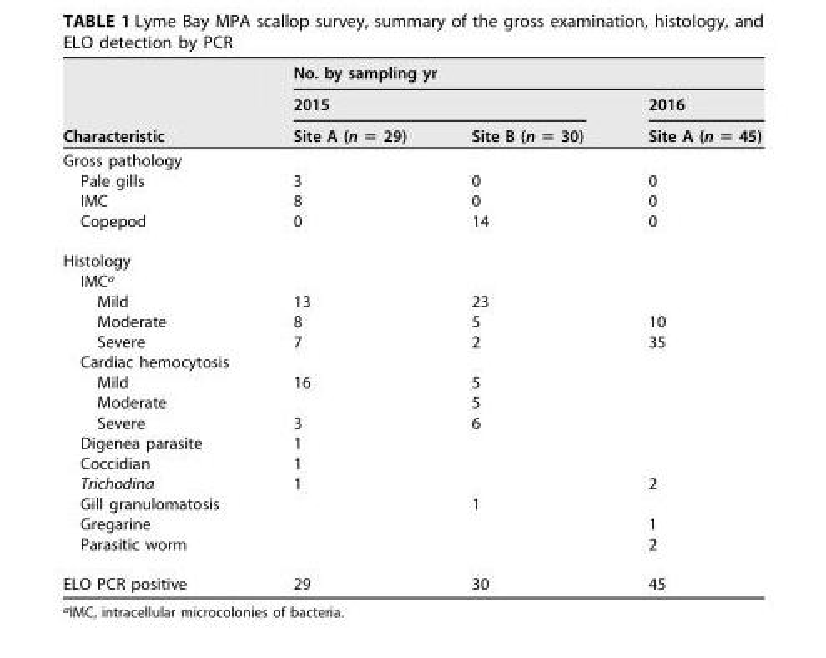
<table><thead><tr><td rowspan="3">Characteristic</td><td colspan="3">No. by sampling yr</td></tr><tr><td colspan="2">2015</td><td rowspan="2">2016 Site A (n = 45)</td></tr><tr><td>Site A (n = 29)</td><td>Site B (n = 30)</td></tr></thead><tbody><tr><td colspan="4">Gross pathology</td></tr><tr><td>Pale gills</td><td>3</td><td>0</td><td>0</td></tr><tr><td>IMC</td><td>8</td><td>0</td><td>0</td></tr><tr><td>Copepod</td><td>0</td><td>14</td><td>0</td></tr><tr><td colspan="4">Histology</td></tr><tr><td colspan="4">IMC<sup>a</sup></td></tr><tr><td>Mild</td><td>13</td><td>23</td><td></td></tr><tr><td>Moderate</td><td>8</td><td>5</td><td>10</td></tr><tr><td>Severe</td><td>7</td><td>2</td><td>35</td></tr><tr><td colspan="4">Cardiac hemocytosis</td></tr><tr><td>Mild</td><td>16</td><td>5</td><td></td></tr><tr><td>Moderate</td><td></td><td>5</td><td></td></tr><tr><td>Severe</td><td>3</td><td>6</td><td></td></tr><tr><td>Digenea parasite</td><td>1</td><td></td><td></td></tr><tr><td>Coccidian</td><td>1</td><td></td><td></td></tr><tr><td>Trichodina</td><td>1</td><td></td><td>2</td></tr><tr><td>Gill granulomatosis</td><td></td><td>1</td><td></td></tr><tr><td>Gregarine</td><td></td><td></td><td>1</td></tr><tr><td>Parasitic worm</td><td></td><td></td><td>2</td></tr><tr><td>ELO PCR positive</td><td>29</td><td>30</td><td>45</td></tr></tbody></table>